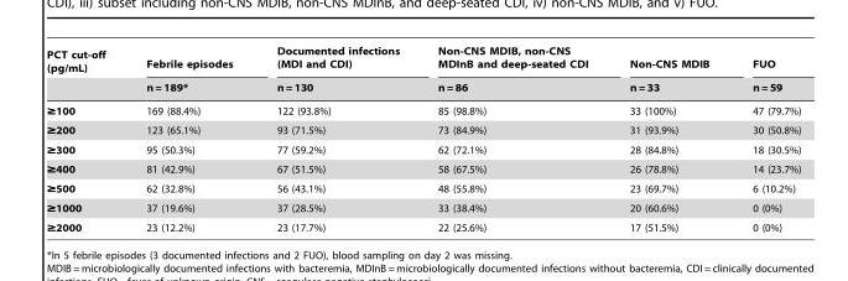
<table><thead><tr><td rowspan="2">PCT cut-off (pg/mL)</td><td rowspan="2">Febrile episodes n = 189*</td><td rowspan="2">Documented infections (MDI and CDI) n = 130</td><td rowspan="2">Non-CNS MDIB, non-CNS MDInB and deep-seated CDI n = 86</td><td rowspan="2">Non-CNS MDIB n = 33</td><td rowspan="2">FUO n = 59</td></tr><tr></tr></thead><tbody><tr><td>≥100</td><td>169 (88.4%)</td><td>122 (93.8%)</td><td>85 (98.8%)</td><td>33 (100%)</td><td>47 (79.7%)</td></tr><tr><td>≥200</td><td>123 (65.1%)</td><td>93 (71.5%)</td><td>73 (84.9%)</td><td>31 (93.9%)</td><td>30 (50.8%)</td></tr><tr><td>≥300</td><td>95 (50.3%)</td><td>77 (59.2%)</td><td>62 (72.1%)</td><td>28 (84.8%)</td><td>18 (30.5%)</td></tr><tr><td>≥400</td><td>81 (42.9%)</td><td>67 (51.5%)</td><td>58 (67.5%)</td><td>26 (78.8%)</td><td>14 (23.7%)</td></tr><tr><td>≥500</td><td>62 (32.8%)</td><td>56 (43.1%)</td><td>48 (55.8%)</td><td>23 (69.7%)</td><td>6 (10.2%)</td></tr><tr><td>≥1000</td><td>37 (19.6%)</td><td>37 (28.5%)</td><td>33 (38.4%)</td><td>20 (60.6%)</td><td>0 (0%)</td></tr><tr><td>≥2000</td><td>23 (12.2%)</td><td>23 (17.7%)</td><td>22 (25.6%)</td><td>17 (51.5%)</td><td>0 (0%)</td></tr></tbody></table>